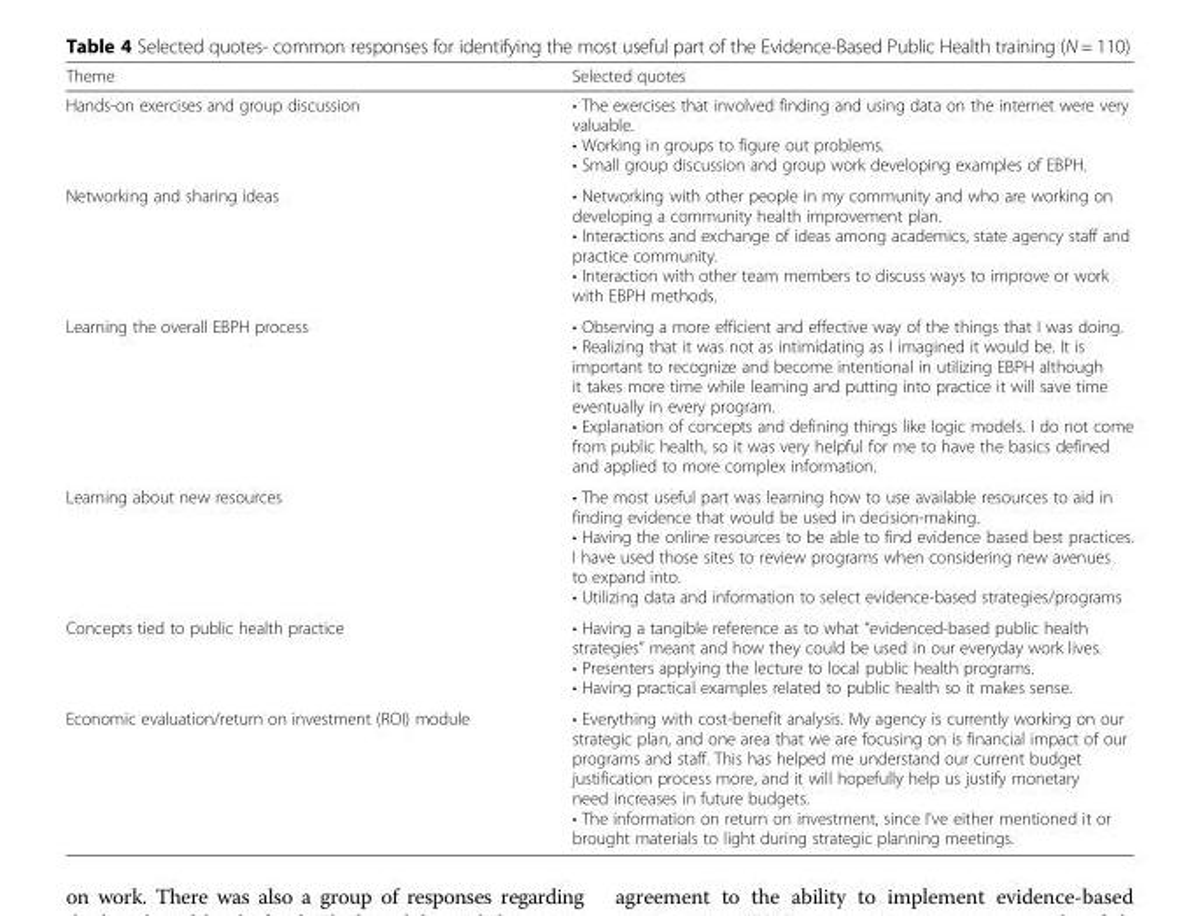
<table><thead><tr><td>Theme</td><td>Selected quotes</td></tr></thead><tbody><tr><td>Hands-on exercises and group discussion</td><td>• The exercises that involved finding and using data on the internet were very valuable. • Working in groups to figure out problems. • Small group discussion and group work developing examples of EBPH.</td></tr><tr><td>Networking and sharing ideas</td><td>• Networking with other people in my community and who are working on developing a community health improvement plan. • Interactions and exchange of ideas among academics, state agency staff and practice community. • Interaction with other team members to discuss ways to improve or work with EBPH methods.</td></tr><tr><td>Learning the overall EBPH process</td><td>• Observing a more efficient and effective way of the things that I was doing. • Realizing that it was not as intimidating as I imagined it would be. It is important to recognize and become intentional in utilizing EBPH although it takes more time while learning and putting into practice it will save time eventually in every program. • Explanation of concepts and defining things like logic models. I do not come from public health, so it was very helpful for me to have the basics defined and applied to more complex information.</td></tr><tr><td>Learning about new resources</td><td>• The most useful part was learning how to use available resources to aid in finding evidence that would be used in decision-making. • Having the online resources to be able to find evidence based best practices. I have used those sites to review programs when considering new avenues to expand into. • Utilizing data and information to select evidence-based strategies/programs</td></tr><tr><td>Concepts tied to public health practice</td><td>• Having a tangible reference as to what “evidenced-based public health strategies” meant and how they could be used in our everyday work lives. • Presenters applying the lecture to local public health programs. • Having practical examples related to public health so it makes sense.</td></tr><tr><td>Economic evaluation/return on investment (ROI) module</td><td>• Everything with cost-benefit analysis. My agency is currently working on our strategic plan, and one area that we are focusing on is financial impact of our programs and staff. This has helped me understand our current budget justification process more, and it will hopefully help us justify monetary need increases in future budgets. • The information on return on investment, since I’ve either mentioned it or brought materials to light during strategic planning meetings.</td></tr></tbody></table>